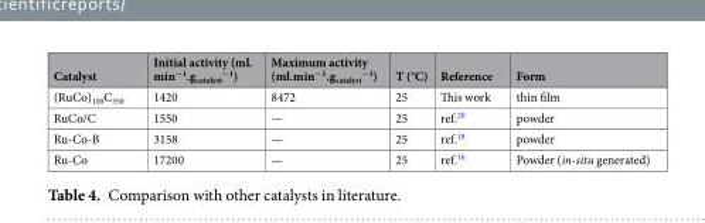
<table><thead><tr><td>Catalyst</td><td>Initial activity (ml. min<sup>−1</sup>.g<sub>catalyst</sub> <sup>−1</sup>)</td><td>Maximum activity (ml.min<sup>−1</sup>.g<sub>catalyst</sub> <sup>−1</sup>)</td><td>T (°C)</td><td>Reference</td><td>Form</td></tr></thead><tbody><tr><td>(RuCo)<sub>100</sub>C<sub>350</sub></td><td>1420</td><td>8472</td><td>25</td><td>This work</td><td>thin film</td></tr><tr><td>RuCo/C</td><td>1550</td><td>—</td><td>25</td><td>ref.<sup>20</sup></td><td>powder</td></tr><tr><td>Ru-Co-B</td><td>3158</td><td>—</td><td>25</td><td>ref.<sup>18</sup></td><td>powder</td></tr><tr><td>Ru-Co</td><td>17200</td><td>—</td><td>25</td><td>ref.<sup>16</sup></td><td>Powder (in-situ generated)</td></tr></tbody></table>